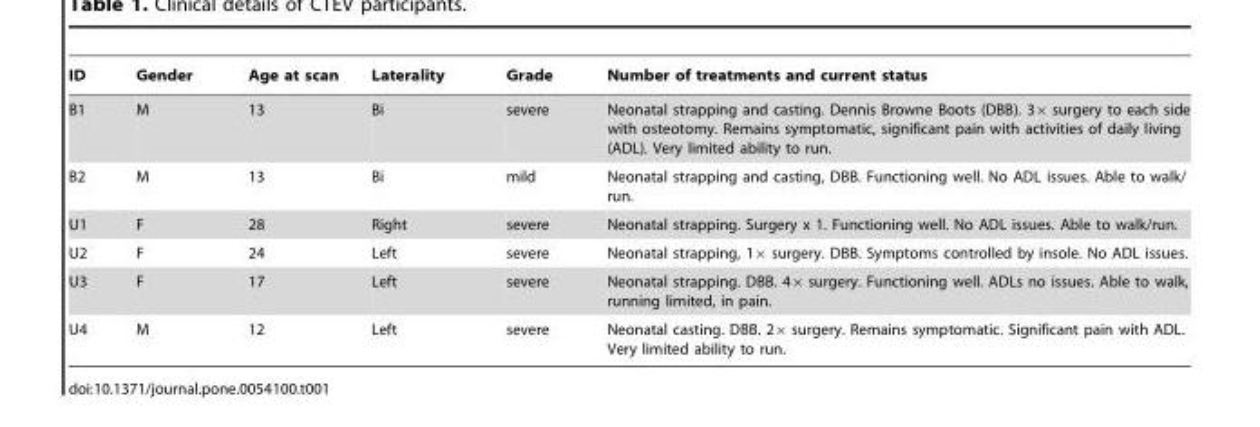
<table><thead><tr><td>ID</td><td>Gender</td><td>Age at scan</td><td>Laterality</td><td>Grade</td><td>Number of treatments and current status</td></tr></thead><tbody><tr><td>B1</td><td>M</td><td>13</td><td>Bi</td><td>severe</td><td>Neonatal strapping and casting. Dennis Browne Boots (DBB). 3× surgery to each side with osteotomy. Remains symptomatic, significant pain with activities of daily living (ADL). Very limited ability to run.</td></tr><tr><td>B2</td><td>M</td><td>13</td><td>Bi</td><td>mild</td><td>Neonatal strapping and casting, DBB. Functioning well. No ADL issues. Able to walk/ run.</td></tr><tr><td>U1</td><td>F</td><td>28</td><td>Right</td><td>severe</td><td>Neonatal strapping. Surgery x 1. Functioning well. No ADL issues. Able to walk/run.</td></tr><tr><td>U2</td><td>F</td><td>24</td><td>Left</td><td>severe</td><td>Neonatal strapping, 1× surgery. DBB. Symptoms controlled by insole. No ADL issues.</td></tr><tr><td>U3</td><td>F</td><td>17</td><td>Left</td><td>severe</td><td>Neonatal strapping. DBB. 4× surgery. Functioning well. ADLs no issues. Able to walk, running limited, in pain.</td></tr><tr><td>U4</td><td>M</td><td>12</td><td>Left</td><td>severe</td><td>Neonatal casting. DBB. 2× surgery. Remains symptomatic. Significant pain with ADL. Very limited ability to run.</td></tr></tbody></table>